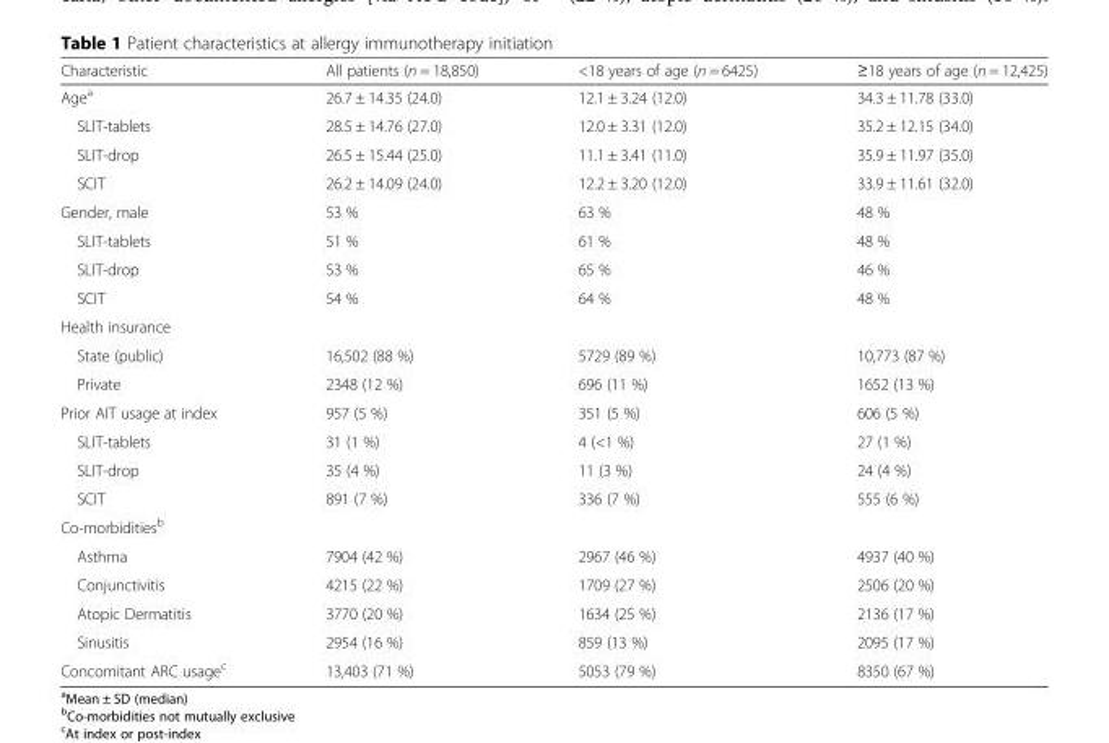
<table><thead><tr><td>Characteristic</td><td>All patients (n = 18,850)</td><td>&lt;18 years of age (n = 6425)</td><td>≥18 years of age (n = 12,425)</td></tr></thead><tbody><tr><td>Age<sup>a</sup></td><td>26.7 ± 14.35 (24.0)</td><td>12.1 ± 3.24 (12.0)</td><td>34.3 ± 11.78 (33.0)</td></tr><tr><td>SLIT-tablets</td><td>28.5 ± 14.76 (27.0)</td><td>12.0 ± 3.31 (12.0)</td><td>35.2 ± 12.15 (34.0)</td></tr><tr><td>SLIT-drop</td><td>26.5 ± 15.44 (25.0)</td><td>11.1 ± 3.41 (11.0)</td><td>35.9 ± 11.97 (35.0)</td></tr><tr><td>SCIT</td><td>26.2 ± 14.09 (24.0)</td><td>12.2 ± 3.20 (12.0)</td><td>33.9 ± 11.61 (32.0)</td></tr><tr><td>Gender, male</td><td>53 %</td><td>63 %</td><td>48 %</td></tr><tr><td>SLIT-tablets</td><td>51 %</td><td>61 %</td><td>48 %</td></tr><tr><td>SLIT-drop</td><td>53 %</td><td>65 %</td><td>46 %</td></tr><tr><td>SCIT</td><td>54 %</td><td>64 %</td><td>48 %</td></tr><tr><td colspan="4">Health insurance</td></tr><tr><td>State (public)</td><td>16,502 (88 %)</td><td>5729 (89 %)</td><td>10,773 (87 %)</td></tr><tr><td>Private</td><td>2348 (12 %)</td><td>696 (11 %)</td><td>1652 (13 %)</td></tr><tr><td>Prior AIT usage at index</td><td>957 (5 %)</td><td>351 (5 %)</td><td>606 (5 %)</td></tr><tr><td>SLIT-tablets</td><td>31 (1 %)</td><td>4 (&lt;1 %)</td><td>27 (1 %)</td></tr><tr><td>SLIT-drop</td><td>35 (4 %)</td><td>11 (3 %)</td><td>24 (4 %)</td></tr><tr><td>SCIT</td><td>891 (7 %)</td><td>336 (7 %)</td><td>555 (6 %)</td></tr><tr><td colspan="4">Co-morbidities<sup>b</sup></td></tr><tr><td>Asthma</td><td>7904 (42 %)</td><td>2967 (46 %)</td><td>4937 (40 %)</td></tr><tr><td>Conjunctivitis</td><td>4215 (22 %)</td><td>1709 (27 %)</td><td>2506 (20 %)</td></tr><tr><td>Atopic Dermatitis</td><td>3770 (20 %)</td><td>1634 (25 %)</td><td>2136 (17 %)</td></tr><tr><td>Sinusitis</td><td>2954 (16 %)</td><td>859 (13 %)</td><td>2095 (17 %)</td></tr><tr><td>Concomitant ARC usage<sup>c</sup></td><td>13,403 (71 %)</td><td>5053 (79 %)</td><td>8350 (67 %)</td></tr></tbody></table>